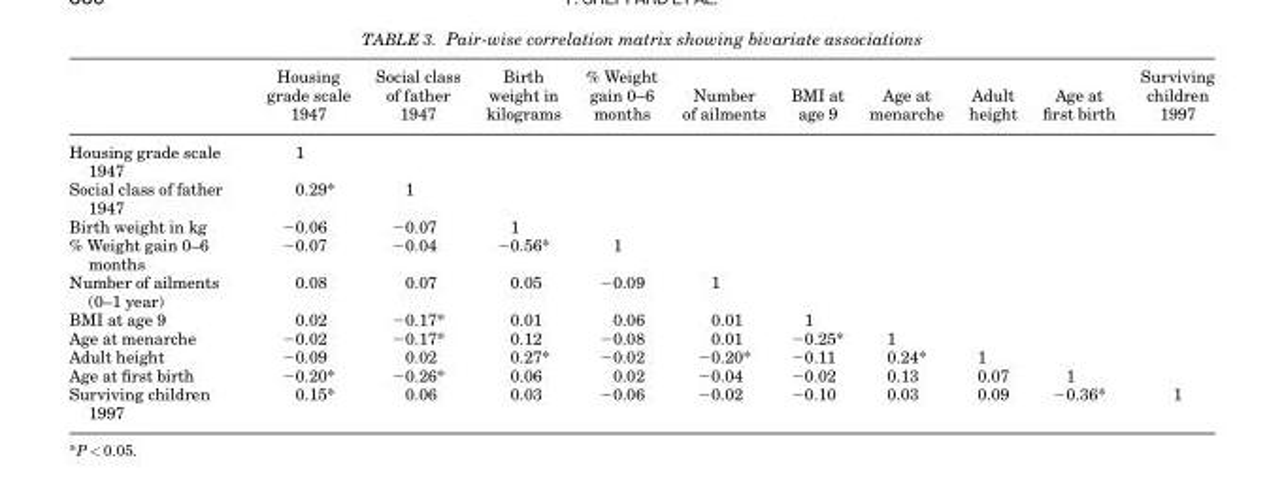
<table><thead><tr><td></td><td>Housing grade scale 1947</td><td>Social class of father 1947</td><td>Birth weight in kilograms</td><td>% Weight gain 0–6 months</td><td>Number of ailments</td><td>BMI at age 9</td><td>Age at menarche</td><td>Adult height</td><td>Age at first birth</td><td>Surviving children 1997</td></tr></thead><tbody><tr><td>Housing grade scale 1947</td><td>1</td><td></td><td></td><td></td><td></td><td></td><td></td><td></td><td></td><td></td></tr><tr><td>Social class of father 1947</td><td>0.29*</td><td>1</td><td></td><td></td><td></td><td></td><td></td><td></td><td></td><td></td></tr><tr><td>Birth weight in kg</td><td>−0.06</td><td>−0.07</td><td>1</td><td></td><td></td><td></td><td></td><td></td><td></td><td></td></tr><tr><td>% Weight gain 0–6 months</td><td>−0.07</td><td>−0.04</td><td>−0.56*</td><td>1</td><td></td><td></td><td></td><td></td><td></td><td></td></tr><tr><td>Number of ailments (0–1 year)</td><td>0.08</td><td>0.07</td><td>0.05</td><td>−0.09</td><td>1</td><td></td><td></td><td></td><td></td><td></td></tr><tr><td>BMI at age 9</td><td>0.02</td><td>−0.17*</td><td>0.01</td><td>0.06</td><td>0.01</td><td>1</td><td></td><td></td><td></td><td></td></tr><tr><td>Age at menarche</td><td>−0.02</td><td>−0.17*</td><td>0.12</td><td>−0.08</td><td>0.01</td><td>−0.25*</td><td>1</td><td></td><td></td><td></td></tr><tr><td>Adult height</td><td>−0.09</td><td>0.02</td><td>0.27*</td><td>−0.02</td><td>−0.20*</td><td>−0.11</td><td>0.24*</td><td>1</td><td></td><td></td></tr><tr><td>Age at first birth</td><td>−0.20*</td><td>−0.26*</td><td>0.06</td><td>0.02</td><td>−0.04</td><td>−0.02</td><td>0.13</td><td>0.07</td><td>1</td><td></td></tr><tr><td>Surviving children 1997</td><td>0.15*</td><td>0.06</td><td>0.03</td><td>−0.06</td><td>−0.02</td><td>−0.10</td><td>0.03</td><td>0.09</td><td>−0.36*</td><td>1</td></tr></tbody></table>